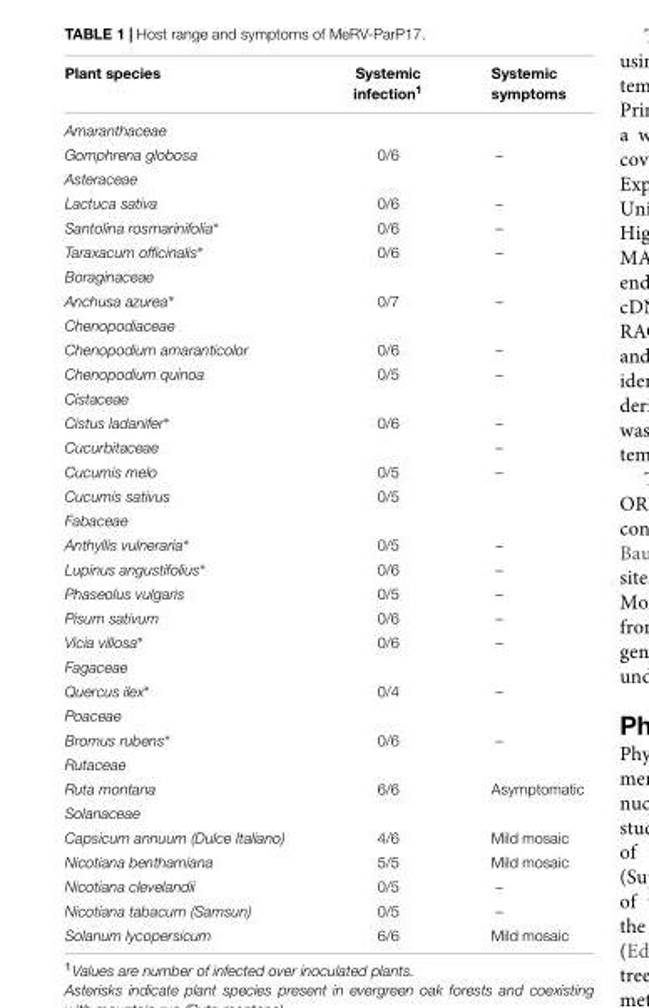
<table><thead><tr><td>Plant species</td><td>Systemic infection<sup>1</sup></td><td>Systemic symptoms</td></tr></thead><tbody><tr><td colspan="3">Amaranthaceae</td></tr><tr><td>Gomphrena globosa</td><td>0/6</td><td>–</td></tr><tr><td colspan="3">Asteraceae</td></tr><tr><td>Lactuca sativa</td><td>0/6</td><td>–</td></tr><tr><td>Santolina rosmarinifolia∗</td><td>0/6</td><td>–</td></tr><tr><td>Taraxacum officinalis∗</td><td>0/6</td><td>–</td></tr><tr><td colspan="3">Boraginaceae</td></tr><tr><td>Anchusa azurea∗</td><td>0/7</td><td>–</td></tr><tr><td colspan="3">Chenopodiaceae</td></tr><tr><td>Chenopodium amaranticolor</td><td>0/6</td><td>–</td></tr><tr><td>Chenopodium quinoa</td><td>0/5</td><td>–</td></tr><tr><td colspan="3">Cistaceae</td></tr><tr><td>Cistus ladanifer∗</td><td>0/6</td><td>–</td></tr><tr><td>Cucurbitaceae</td><td></td><td>–</td></tr><tr><td>Cucumis melo</td><td>0/5</td><td>–</td></tr><tr><td>Cucumis sativus</td><td>0/5</td><td></td></tr><tr><td colspan="3">Fabaceae</td></tr><tr><td>Anthyllis vulneraria∗</td><td>0/5</td><td>–</td></tr><tr><td>Lupinus angustifolius∗</td><td>0/6</td><td>–</td></tr><tr><td>Phaseolus vulgaris</td><td>0/5</td><td>–</td></tr><tr><td>Pisum sativum</td><td>0/6</td><td>–</td></tr><tr><td>Vicia villosa∗</td><td>0/6</td><td>–</td></tr><tr><td colspan="3">Fagaceae</td></tr><tr><td>Quercus ilex∗</td><td>0/4</td><td>–</td></tr><tr><td colspan="3">Poaceae</td></tr><tr><td>Bromus rubens∗</td><td>0/6</td><td>–</td></tr><tr><td colspan="3">Rutaceae</td></tr><tr><td>Ruta montana</td><td>6/6</td><td>Asymptomatic</td></tr><tr><td colspan="3">Solanaceae</td></tr><tr><td>Capsicum annuum (Dulce Italiano)</td><td>4/6</td><td>Mild mosaic</td></tr><tr><td>Nicotiana benthamiana</td><td>5/5</td><td>Mild mosaic</td></tr><tr><td>Nicotiana clevelandii</td><td>0/5</td><td>–</td></tr><tr><td>Nicotiana tabacum (Samsun)</td><td>0/5</td><td>–</td></tr><tr><td>Solanum lycopersicum</td><td>6/6</td><td>Mild mosaic</td></tr></tbody></table>